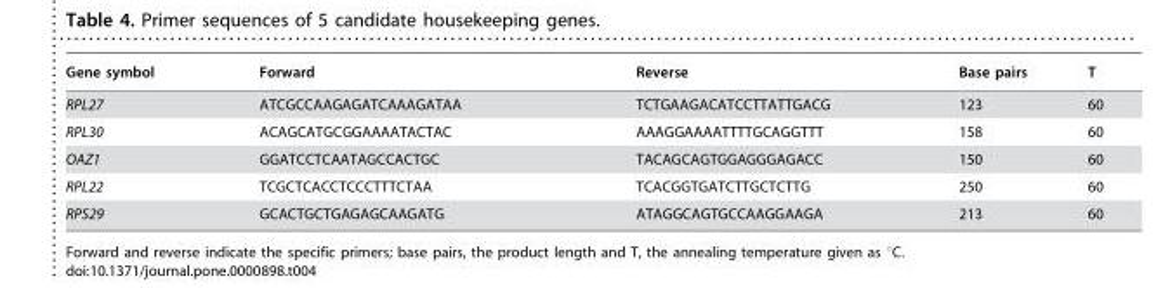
<table><thead><tr><td>Gene symbol</td><td>Forward</td><td>Reverse</td><td>Base pairs</td><td>T</td></tr></thead><tbody><tr><td>RPL27</td><td>ATCGCCAAGAGATCAAAGATAA</td><td>TCTGAAGACATCCTTATTGACG</td><td>123</td><td>60</td></tr><tr><td>RPL30</td><td>ACAGCATGCGGAAAATACTAC</td><td>AAAGGAAAATTTTGCAGGTTT</td><td>158</td><td>60</td></tr><tr><td>OAZ1</td><td>GGATCCTCAATAGCCACTGC</td><td>TACAGCAGTGGAGGGAGACC</td><td>150</td><td>60</td></tr><tr><td>RPL22</td><td>TCGCTCACCTCCCTTTCTAA</td><td>TCACGGTGATCTTGCTCTTG</td><td>250</td><td>60</td></tr><tr><td>RPS29</td><td>GCACTGCTGAGAGCAAGATG</td><td>ATAGGCAGTGCCAAGGAAGA</td><td>213</td><td>60</td></tr></tbody></table>